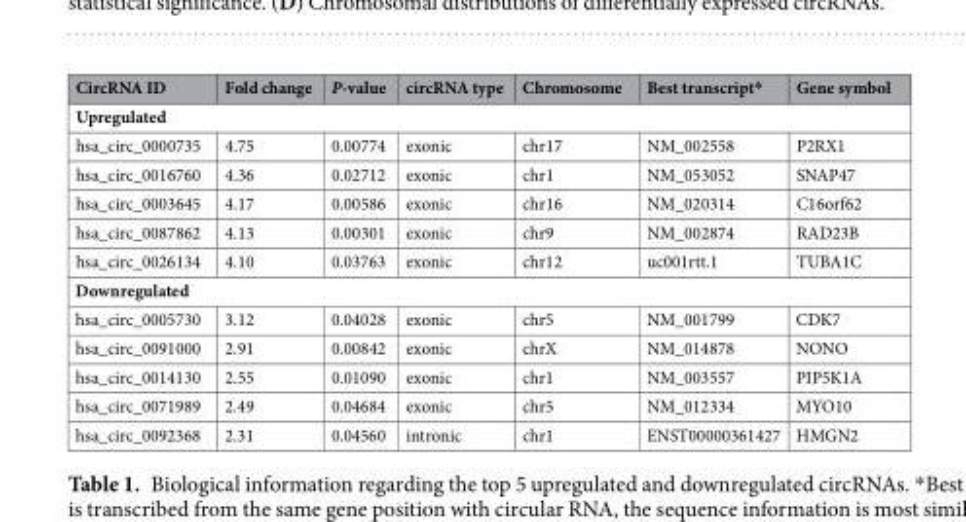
<table><thead><tr><td>CircRNA ID</td><td>Fold change</td><td>P-value</td><td>circRNA type</td><td>Chromosome</td><td>Best transcript*</td><td>Gene symbol</td></tr></thead><tbody><tr><td colspan="7">Upregulated</td></tr><tr><td>hsa_circ_0000735</td><td>4.75</td><td>0.00774</td><td>exonic</td><td>chr17</td><td>NM_002558</td><td>P2RX1</td></tr><tr><td>hsa_circ_0016760</td><td>4.36</td><td>0.02712</td><td>exonic</td><td>chr1</td><td>NM_053052</td><td>SNAP47</td></tr><tr><td>hsa_circ_0003645</td><td>4.17</td><td>0.00586</td><td>exonic</td><td>chr16</td><td>NM_020314</td><td>C16orf62</td></tr><tr><td>hsa_circ_0087862</td><td>4.13</td><td>0.00301</td><td>exonic</td><td>chr9</td><td>NM_002874</td><td>RAD23B</td></tr><tr><td>hsa_circ_0026134</td><td>4.10</td><td>0.03763</td><td>exonic</td><td>chr12</td><td>uc001rtt.1</td><td>TUBA1C</td></tr><tr><td colspan="7">Downregulated</td></tr><tr><td>hsa_circ_0005730</td><td>3.12</td><td>0.04028</td><td>exonic</td><td>chr5</td><td>NM_001799</td><td>CDK7</td></tr><tr><td>hsa_circ_0091000</td><td>2.91</td><td>0.00842</td><td>exonic</td><td>chrX</td><td>NM_014878</td><td>NONO</td></tr><tr><td>hsa_circ_0014130</td><td>2.55</td><td>0.01090</td><td>exonic</td><td>chr1</td><td>NM_003557</td><td>PIP5K1A</td></tr><tr><td>hsa_circ_0071989</td><td>2.49</td><td>0.04684</td><td>exonic</td><td>chr5</td><td>NM_012334</td><td>MYO10</td></tr><tr><td>hsa_circ_0092368</td><td>2.31</td><td>0.04560</td><td>intronic</td><td>chr1</td><td>ENST00000361427</td><td>HMGN2</td></tr></tbody></table>